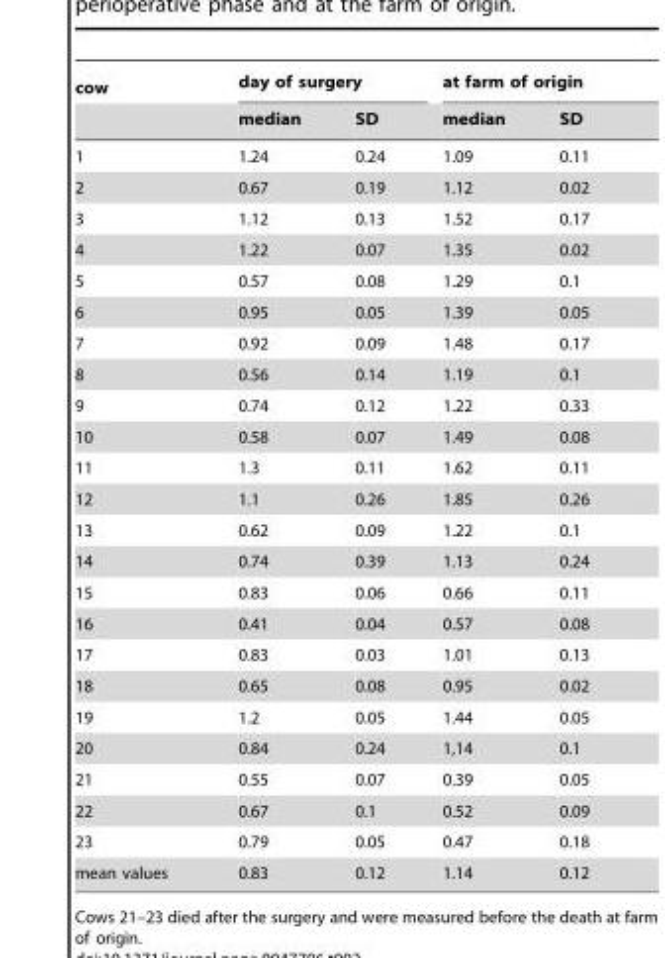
<table><thead><tr><td rowspan="2">cow</td><td colspan="2">day of surgery</td><td colspan="2">at farm of origin</td></tr><tr><td>median</td><td>SD</td><td>median</td><td>SD</td></tr></thead><tbody><tr><td>1</td><td>1.24</td><td>0.24</td><td>1.09</td><td>0.11</td></tr><tr><td>2</td><td>0.67</td><td>0.19</td><td>1.12</td><td>0.02</td></tr><tr><td>3</td><td>1.12</td><td>0.13</td><td>1.52</td><td>0.17</td></tr><tr><td>4</td><td>1.22</td><td>0.07</td><td>1.35</td><td>0.02</td></tr><tr><td>5</td><td>0.57</td><td>0.08</td><td>1.29</td><td>0.1</td></tr><tr><td>6</td><td>0.95</td><td>0.05</td><td>1.39</td><td>0.05</td></tr><tr><td>7</td><td>0.92</td><td>0.09</td><td>1.48</td><td>0.17</td></tr><tr><td>8</td><td>0.56</td><td>0.14</td><td>1.19</td><td>0.1</td></tr><tr><td>9</td><td>0.74</td><td>0.12</td><td>1.22</td><td>0.33</td></tr><tr><td>10</td><td>0.58</td><td>0.07</td><td>1.49</td><td>0.08</td></tr><tr><td>11</td><td>1.3</td><td>0.11</td><td>1.62</td><td>0.11</td></tr><tr><td>12</td><td>1.1</td><td>0.26</td><td>1.85</td><td>0.26</td></tr><tr><td>13</td><td>0.62</td><td>0.09</td><td>1.22</td><td>0.1</td></tr><tr><td>14</td><td>0.74</td><td>0.39</td><td>1.13</td><td>0.24</td></tr><tr><td>15</td><td>0.83</td><td>0.06</td><td>0.66</td><td>0.11</td></tr><tr><td>16</td><td>0.41</td><td>0.04</td><td>0.57</td><td>0.08</td></tr><tr><td>17</td><td>0.83</td><td>0.03</td><td>1.01</td><td>0.13</td></tr><tr><td>18</td><td>0.65</td><td>0.08</td><td>0.95</td><td>0.02</td></tr><tr><td>19</td><td>1.2</td><td>0.05</td><td>1.44</td><td>0.05</td></tr><tr><td>20</td><td>0.84</td><td>0.24</td><td>1,14</td><td>0.1</td></tr><tr><td>21</td><td>0.55</td><td>0.07</td><td>0.39</td><td>0.05</td></tr><tr><td>22</td><td>0.67</td><td>0.1</td><td>0.52</td><td>0.09</td></tr><tr><td>23</td><td>0.79</td><td>0.05</td><td>0.47</td><td>0.18</td></tr><tr><td>mean values</td><td>0.83</td><td>0.12</td><td>1.14</td><td>0.12</td></tr></tbody></table>